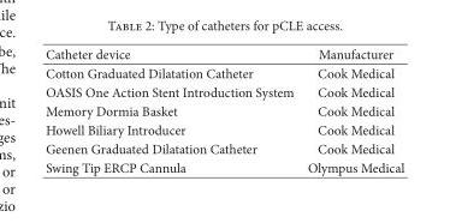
<table><thead><tr><td>Catheter device</td><td>Manufacturer</td></tr></thead><tbody><tr><td>Cotton Graduated Dilatation Catheter</td><td>Cook Medical</td></tr><tr><td>OASIS One Action Stent Introduction System</td><td>Cook Medical</td></tr><tr><td>Memory Dormia Basket</td><td>Cook Medical</td></tr><tr><td>Howell Biliary Introducer</td><td>Cook Medical</td></tr><tr><td>Geenen Graduated Dilatation Catheter</td><td>Cook Medical</td></tr><tr><td>Swing Tip ERCP Cannula</td><td>Olympus Medical</td></tr></tbody></table>